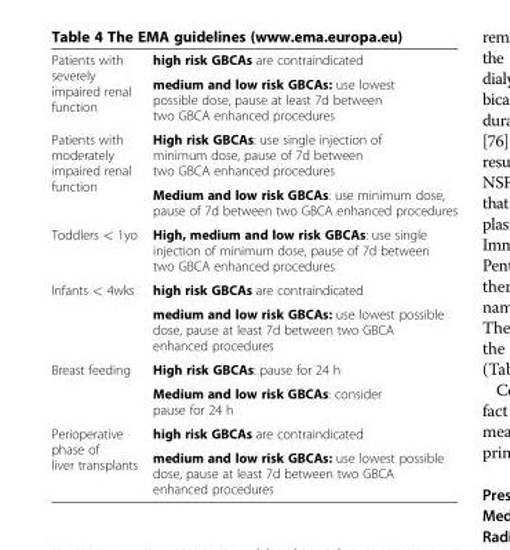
<table><tbody><tr><td rowspan="2">Patients with severely impaired renal function</td><td>high risk GBCAs are contraindicated</td></tr><tr><td>medium and low risk GBCAs: use lowest possible dose, pause at least 7d between two GBCA enhanced procedures</td></tr><tr><td rowspan="2">Patients with moderately impaired renal function</td><td>High risk GBCAs: use single injection of minimum dose, pause of 7d between two GBCA enhanced procedures</td></tr><tr><td>Medium and low risk GBCAs: use minimum dose, pause of 7d between two GBCA enhanced procedures</td></tr><tr><td>Toddlers &lt; 1yo</td><td>High, medium and low risk GBCAs: use single injection of minimum dose, pause of 7d between two GBCA enhanced procedures</td></tr><tr><td rowspan="2">Infants &lt; 4wks</td><td>high risk GBCAs are contraindicated</td></tr><tr><td>medium and low risk GBCAs: use lowest possible dose, pause at least 7d between two GBCA enhanced procedures</td></tr><tr><td rowspan="2">Breast feeding</td><td>High risk GBCAs: pause for 24 h</td></tr><tr><td>Medium and low risk GBCAs: consider pause for 24 h</td></tr><tr><td rowspan="2">Perioperative phase of liver transplants</td><td>high risk GBCAs are contraindicated</td></tr><tr><td>medium and low risk GBCAs: use lowest possible dose, pause at least 7d between two GBCA enhanced procedures</td></tr></tbody></table>